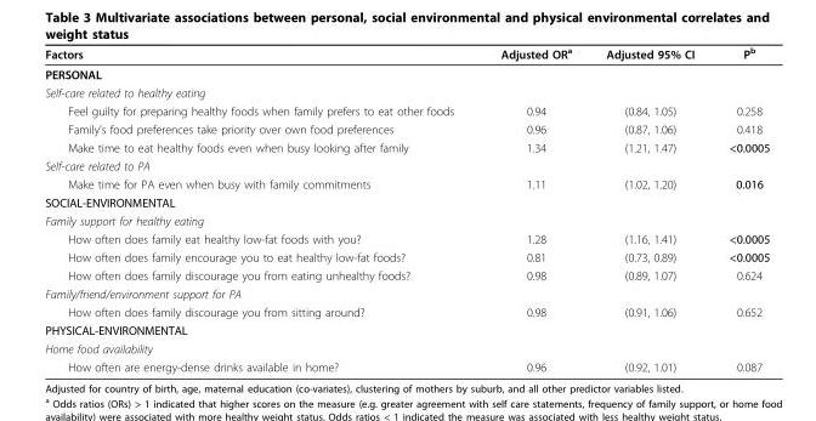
<table><thead><tr><td>Factors</td><td>Adjusted OR<sup>a</sup></td><td>Adjusted 95% CI</td><td>P<sup>b</sup></td></tr></thead><tbody><tr><td colspan="4">PERSONAL</td></tr><tr><td colspan="4">Self-care related to healthy eating</td></tr><tr><td>Feel guilty for preparing healthy foods when family prefers to eat other foods</td><td>0.94</td><td>(0.84, 1.05)</td><td>0.258</td></tr><tr><td>Family’s food preferences take priority over own food preferences</td><td>0.96</td><td>(0.87, 1.06)</td><td>0.418</td></tr><tr><td>Make time to eat healthy foods even when busy looking after family</td><td>1.34</td><td>(1.21, 1.47)</td><td>&lt;0.0005</td></tr><tr><td colspan="4">Self-care related to PA</td></tr><tr><td>Make time for PA even when busy with family commitments</td><td>1.11</td><td>(1.02, 1.20)</td><td>0.016</td></tr><tr><td colspan="4">SOCIAL-ENVIRONMENTAL</td></tr><tr><td colspan="4">Family support for healthy eating</td></tr><tr><td>How often does family eat healthy low-fat foods with you?</td><td>1.28</td><td>(1.16, 1.41)</td><td>&lt;0.0005</td></tr><tr><td>How often does family encourage you to eat healthy low-fat foods?</td><td>0.81</td><td>(0.73, 0.89)</td><td>&lt;0.0005</td></tr><tr><td>How often does family discourage you from eating unhealthy foods?</td><td>0.98</td><td>(0.89, 1.07)</td><td>0.624</td></tr><tr><td colspan="4">Family/friend/environment support for PA</td></tr><tr><td>How often does family discourage you from sitting around?</td><td>0.98</td><td>(0.91, 1.06)</td><td>0.652</td></tr><tr><td colspan="4">PHYSICAL-ENVIRONMENTAL</td></tr><tr><td colspan="4">Home food availability</td></tr><tr><td>How often are energy-dense drinks available in home?</td><td>0.96</td><td>(0.92, 1.01)</td><td>0.087</td></tr></tbody></table>